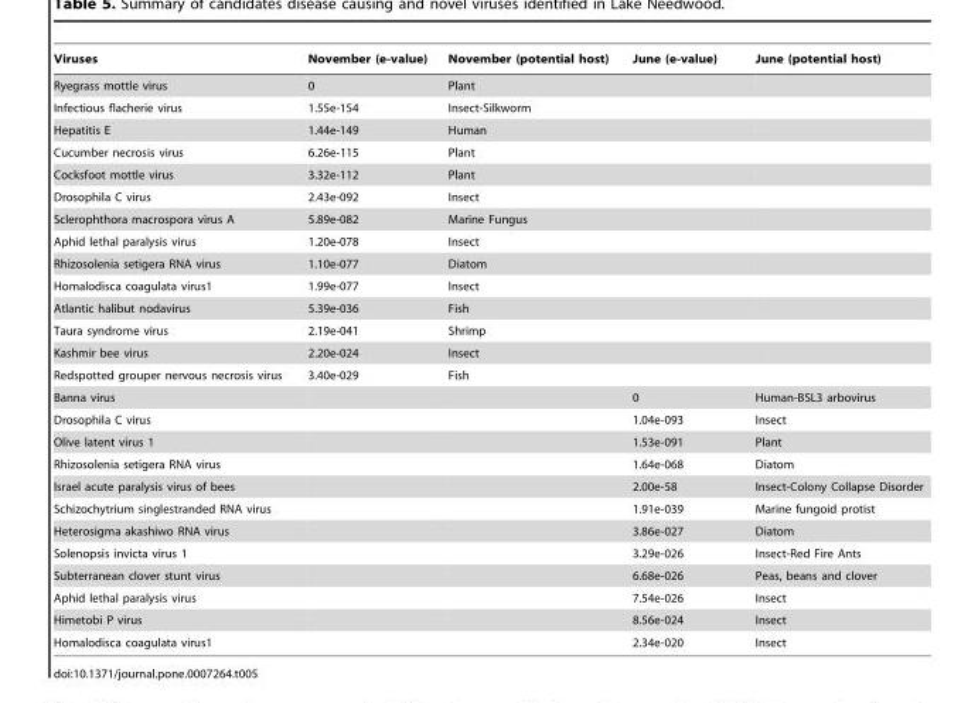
<table><thead><tr><td>Viruses</td><td>November (e-value)</td><td>November (potential host)</td><td>June (e-value)</td><td>June (potential host)</td></tr></thead><tbody><tr><td>Ryegrass mottle virus</td><td>0</td><td>Plant</td><td></td><td></td></tr><tr><td>Infectious flacherie virus</td><td>1.55e-154</td><td>Insect-Silkworm</td><td></td><td></td></tr><tr><td>Hepatitis E</td><td>1.44e-149</td><td>Human</td><td></td><td></td></tr><tr><td>Cucumber necrosis virus</td><td>6.26e-115</td><td>Plant</td><td></td><td></td></tr><tr><td>Cocksfoot mottle virus</td><td>3.32e-112</td><td>Plant</td><td></td><td></td></tr><tr><td>Drosophila C virus</td><td>2.43e-092</td><td>Insect</td><td></td><td></td></tr><tr><td>Sclerophthora macrospora virus A</td><td>5.89e-082</td><td>Marine Fungus</td><td></td><td></td></tr><tr><td>Aphid lethal paralysis virus</td><td>1.20e-078</td><td>Insect</td><td></td><td></td></tr><tr><td>Rhizosolenia setigera RNA virus</td><td>1.10e-077</td><td>Diatom</td><td></td><td></td></tr><tr><td>Homalodisca coagulata virus1</td><td>1.99e-077</td><td>Insect</td><td></td><td></td></tr><tr><td>Atlantic halibut nodavirus</td><td>5.39e-036</td><td>Fish</td><td></td><td></td></tr><tr><td>Taura syndrome virus</td><td>2.19e-041</td><td>Shrimp</td><td></td><td></td></tr><tr><td>Kashmir bee virus</td><td>2.20e-024</td><td>Insect</td><td></td><td></td></tr><tr><td>Redspotted grouper nervous necrosis virus</td><td>3.40e-029</td><td>Fish</td><td></td><td></td></tr><tr><td>Banna virus</td><td></td><td></td><td>0</td><td>Human-BSL3 arbovirus</td></tr><tr><td>Drosophila C virus</td><td></td><td></td><td>1.04e-093</td><td>Insect</td></tr><tr><td>Olive latent virus 1</td><td></td><td></td><td>1.53e-091</td><td>Plant</td></tr><tr><td>Rhizosolenia setigera RNA virus</td><td></td><td></td><td>1.64e-068</td><td>Diatom</td></tr><tr><td>Israel acute paralysis virus of bees</td><td></td><td></td><td>2.00e-58</td><td>Insect-Colony Collapse Disorder</td></tr><tr><td>Schizochytrium singlestranded RNA virus</td><td></td><td></td><td>1.91e-039</td><td>Marine fungoid protist</td></tr><tr><td>Heterosigma akashiwo RNA virus</td><td></td><td></td><td>3.86e-027</td><td>Diatom</td></tr><tr><td>Solenopsis invicta virus 1</td><td></td><td></td><td>3.29e-026</td><td>Insect-Red Fire Ants</td></tr><tr><td>Subterranean clover stunt virus</td><td></td><td></td><td>6.68e-026</td><td>Peas, beans and clover</td></tr><tr><td>Aphid lethal paralysis virus</td><td></td><td></td><td>7.54e-026</td><td>Insect</td></tr><tr><td>Himetobi P virus</td><td></td><td></td><td>8.56e-024</td><td>Insect</td></tr><tr><td>Homalodisca coagulata virus1</td><td></td><td></td><td>2.34e-020</td><td>Insect</td></tr></tbody></table>